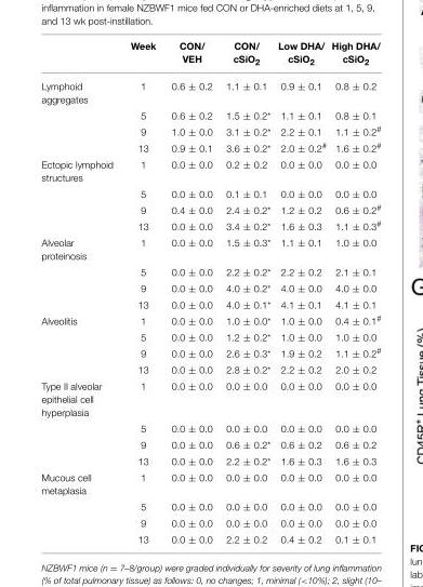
<table><thead><tr><td></td><td>Week</td><td>CON/ VEH</td><td>CON/ cSiO<sub>2</sub></td><td>Low DHA/ cSiO<sub>2</sub></td><td>High DHA/ cSiO<sub>2</sub></td></tr></thead><tbody><tr><td rowspan="4">Lymphoid aggregates</td><td>1</td><td>0.6 ± 0.2</td><td>1.1 ± 0.1</td><td>0.9 ± 0.1</td><td>0.8 ± 0.2</td></tr><tr><td>5</td><td>0.6 ± 0.2</td><td>1.5 ± 0.2*</td><td>1.1 ± 0.1</td><td>0.8 ± 0.1</td></tr><tr><td>9</td><td>1.0 ± 0.0</td><td>3.1 ± 0.2*</td><td>2.2 ± 0.1</td><td>1.1 ± 0.2<sup>#</sup></td></tr><tr><td>13</td><td>0.9 ± 0.1</td><td>3.6 ± 0.2*</td><td>2.0 ± 0.2<sup>#</sup></td><td>1.6 ± 0.2<sup>#</sup></td></tr><tr><td rowspan="4">Ectopic lymphoid structures</td><td>1</td><td>0.0 ± 0.0</td><td>0.2 ± 0.2</td><td>0.0 ± 0.0</td><td>0.0 ± 0.0</td></tr><tr><td>5</td><td>0.0 ± 0.0</td><td>0.1 ± 0.1</td><td>0.0 ± 0.0</td><td>0.0 ± 0.0</td></tr><tr><td>9</td><td>0.4 ± 0.0</td><td>2.4 ± 0.2*</td><td>1.2 ± 0.2</td><td>0.6 ± 0.2<sup>#</sup></td></tr><tr><td>13</td><td>0.0 ± 0.0</td><td>3.4 ± 0.2*</td><td>1.6 ± 0.3</td><td>1.1 ± 0.3<sup>#</sup></td></tr><tr><td rowspan="4">Alveolar proteinosis</td><td>1</td><td>0.0 ± 0.0</td><td>1.5 ± 0.3*</td><td>1.1 ± 0.1</td><td>1.0 ± 0.0</td></tr><tr><td>5</td><td>0.0 ± 0.0</td><td>2.2 ± 0.2*</td><td>2.2 ± 0.2</td><td>2.1 ± 0.1</td></tr><tr><td>9</td><td>0.0 ± 0.0</td><td>4.0 ± 0.2*</td><td>4.0 ± 0.0</td><td>4.0 ± 0.0</td></tr><tr><td>13</td><td>0.0 ± 0.0</td><td>4.0 ± 0.1*</td><td>4.1 ± 0.1</td><td>4.1 ± 0.1</td></tr><tr><td rowspan="4">Alveolitis</td><td>1</td><td>0.0 ± 0.0</td><td>1.0 ± 0.0*</td><td>1.0 ± 0.0</td><td>0.4 ± 0.1<sup>#</sup></td></tr><tr><td>5</td><td>0.0 ± 0.0</td><td>1.2 ± 0.2*</td><td>1.0 ± 0.0</td><td>1.0 ± 0.0</td></tr><tr><td>9</td><td>0.0 ± 0.0</td><td>2.6 ± 0.3*</td><td>1.9 ± 0.2</td><td>1.1 ± 0.2<sup>#</sup></td></tr><tr><td>13</td><td>0.0 ± 0.0</td><td>2.8 ± 0.2*</td><td>2.2 ± 0.2</td><td>2.0 ± 0.2</td></tr><tr><td rowspan="4">Type II alveolar epithelial cell hyperplasia</td><td>1</td><td>0.0 ± 0.0</td><td>0.0 ± 0.0</td><td>0.0 ± 0.0</td><td>0.0 ± 0.0</td></tr><tr><td>5</td><td>0.0 ± 0.0</td><td>0.0 ± 0.0</td><td>0.0 ± 0.0</td><td>0.0 ± 0.0</td></tr><tr><td>9</td><td>0.0 ± 0.0</td><td>0.6 ± 0.2*</td><td>0.6 ± 0.2</td><td>0.6 ± 0.2</td></tr><tr><td>13</td><td>0.0 ± 0.0</td><td>2.2 ± 0.2*</td><td>1.6 ± 0.3</td><td>1.6 ± 0.3</td></tr><tr><td rowspan="4">Mucous cell metaplasia</td><td>1</td><td>0.0 ± 0.0</td><td>0.0 ± 0.0</td><td>0.0 ± 0.0</td><td>0.0 ± 0.0</td></tr><tr><td>5</td><td>0.0 ± 0.0</td><td>0.0 ± 0.0</td><td>0.0 ± 0.0</td><td>0.0 ± 0.0</td></tr><tr><td>9</td><td>0.0 ± 0.0</td><td>0.0 ± 0.0</td><td>0.0 ± 0.0</td><td>0.0 ± 0.0</td></tr><tr><td>13</td><td>0.0 ± 0.0</td><td>2.2 ± 0.2</td><td>0.4 ± 0.2</td><td>0.1 ± 0.1</td></tr></tbody></table>